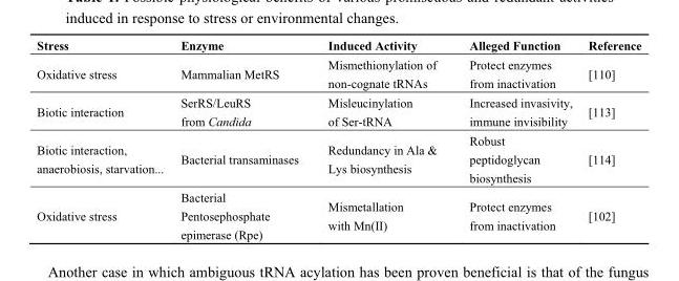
<table><thead><tr><td>Stress</td><td>Enzyme</td><td>Induced Activity</td><td>Alleged Function</td><td>Reference</td></tr></thead><tbody><tr><td>Oxidative stress</td><td>Mammalian MetRS</td><td>Mismethionylation of non-cognate tRNAs</td><td>Protect enzymes from inactivation</td><td>[110]</td></tr><tr><td>Biotic interaction</td><td>SerRS/LeuRS from Candida</td><td>Misleucinylation of Ser-tRNA</td><td>Increased invasivity, immune invisibility</td><td>[113]</td></tr><tr><td>Biotic interaction, anaerobiosis, starvation...</td><td>Bacterial transaminases</td><td>Redundancy in Ala &amp; Lys biosynthesis</td><td>Robust peptidoglycan biosynthesis</td><td>[114]</td></tr><tr><td>Oxidative stress</td><td>Bacterial Pentosephosphate epimerase (Rpe)</td><td>Mismetallation with Mn(II)</td><td>Protect enzymes from inactivation</td><td>[102]</td></tr></tbody></table>